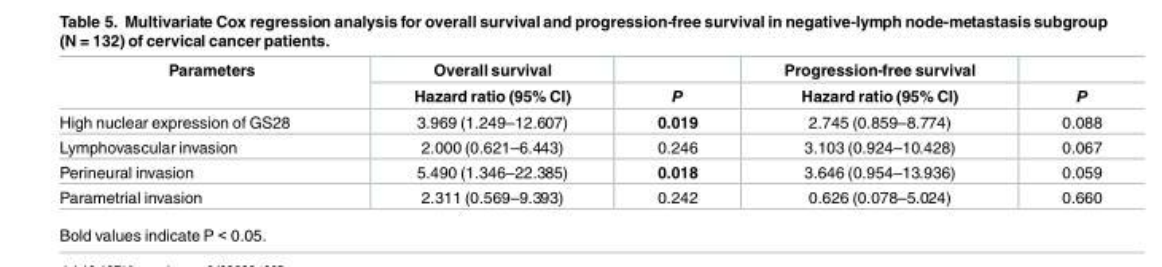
<table><thead><tr><td rowspan="2">Parameters</td><td rowspan="2">Overall survival Hazard ratio (95% CI)</td><td rowspan="2">P</td><td rowspan="2">Progression-free survival Hazard ratio (95% CI)</td><td rowspan="2">P</td></tr><tr></tr></thead><tbody><tr><td>High nuclear expression of GS28</td><td>3.969 (1.249–12.607)</td><td>0.019</td><td>2.745 (0.859–8.774)</td><td>0.088</td></tr><tr><td>Lymphovascular invasion</td><td>2.000 (0.621–6.443)</td><td>0.246</td><td>3.103 (0.924–10.428)</td><td>0.067</td></tr><tr><td>Perineural invasion</td><td>5.490 (1.346–22.385)</td><td>0.018</td><td>3.646 (0.954–13.936)</td><td>0.059</td></tr><tr><td>Parametrial invasion</td><td>2.311 (0.569–9.393)</td><td>0.242</td><td>0.626 (0.078–5.024)</td><td>0.660</td></tr></tbody></table>